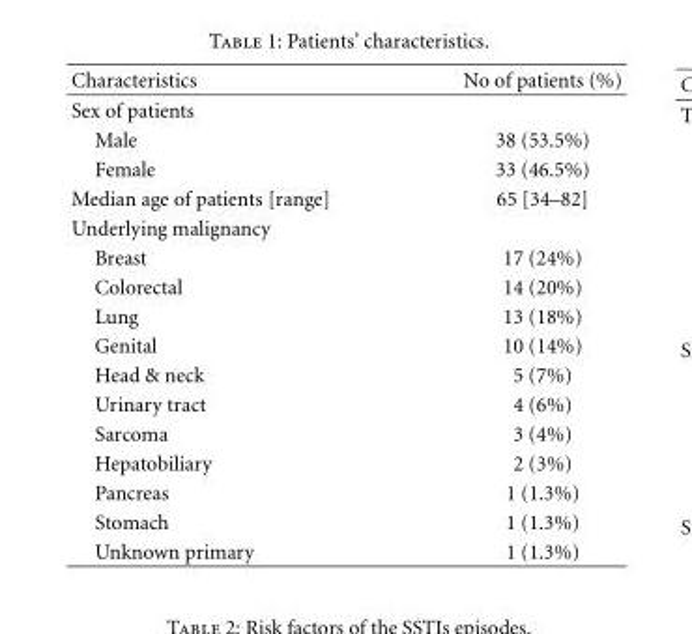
<table><thead><tr><td>Characteristics</td><td>No of patients (%)</td></tr></thead><tbody><tr><td colspan="2">Sex of patients</td></tr><tr><td>Male</td><td>38 (53.5%)</td></tr><tr><td>Female</td><td>33 (46.5%)</td></tr><tr><td>Median age of patients [range]</td><td>65 [34–82]</td></tr><tr><td colspan="2">Underlying malignancy</td></tr><tr><td>Breast</td><td>17 (24%)</td></tr><tr><td>Colorectal</td><td>14 (20%)</td></tr><tr><td>Lung</td><td>13 (18%)</td></tr><tr><td>Genital</td><td>10 (14%)</td></tr><tr><td>Head &amp; neck</td><td>5 (7%)</td></tr><tr><td>Urinary tract</td><td>4 (6%)</td></tr><tr><td>Sarcoma</td><td>3 (4%)</td></tr><tr><td>Hepatobiliary</td><td>2 (3%)</td></tr><tr><td>Pancreas</td><td>1 (1.3%)</td></tr><tr><td>Stomach</td><td>1 (1.3%)</td></tr><tr><td>Unknown primary</td><td>1 (1.3%)</td></tr></tbody></table>